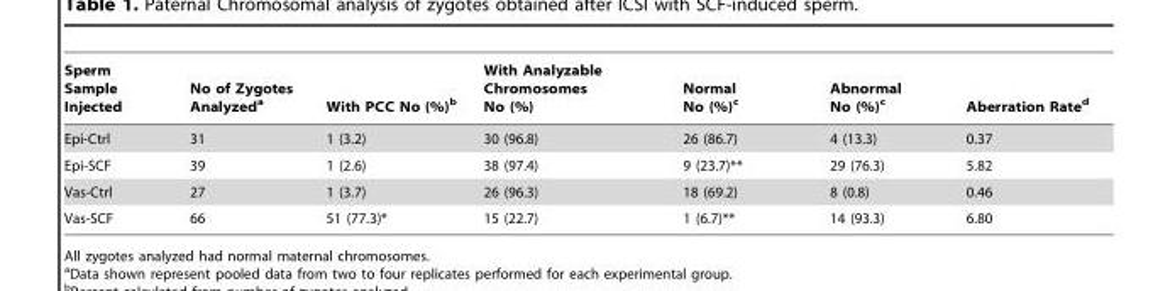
<table><thead><tr><td>Sperm Sample Injected</td><td>No of Zygotes Analyzed<sup>a</sup></td><td>With PCC No (%)<sup>b</sup></td><td>With Analyzable Chromosomes No (%)</td><td>Normal No (%)<sup>c</sup></td><td>Abnormal No (%)<sup>c</sup></td><td>Aberration Rate<sup>d</sup></td></tr></thead><tbody><tr><td>Epi-Ctrl</td><td>31</td><td>1 (3.2)</td><td>30 (96.8)</td><td>26 (86.7)</td><td>4 (13.3)</td><td>0.37</td></tr><tr><td>Epi-SCF</td><td>39</td><td>1 (2.6)</td><td>38 (97.4)</td><td>9 (23.7)**</td><td>29 (76.3)</td><td>5.82</td></tr><tr><td>Vas-Ctrl</td><td>27</td><td>1 (3.7)</td><td>26 (96.3)</td><td>18 (69.2)</td><td>8 (0.8)</td><td>0.46</td></tr><tr><td>Vas-SCF</td><td>66</td><td>51 (77.3)*</td><td>15 (22.7)</td><td>1 (6.7)**</td><td>14 (93.3)</td><td>6.80</td></tr></tbody></table>